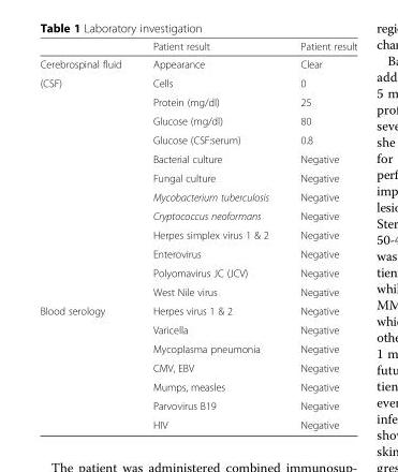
<table><thead><tr><td></td><td>Patient result</td><td>Patient result</td></tr></thead><tbody><tr><td>Cerebrospinal fluid</td><td>Appearance</td><td>Clear</td></tr><tr><td rowspan="12">(CSF)</td><td>Cells</td><td>0</td></tr><tr><td>Protein (mg/dl)</td><td>25</td></tr><tr><td>Glucose (mg/dl)</td><td>80</td></tr><tr><td>Glucose (CSF:serum)</td><td>0.8</td></tr><tr><td>Bacterial culture</td><td>Negative</td></tr><tr><td>Fungal culture</td><td>Negative</td></tr><tr><td>Mycobacterium tuberculosis</td><td>Negative</td></tr><tr><td>Cryptococcus neoformans</td><td>Negative</td></tr><tr><td>Herpes simplex virus 1 &amp; 2</td><td>Negative</td></tr><tr><td>Enterovirus</td><td>Negative</td></tr><tr><td>Polyomavirus JC (JCV)</td><td>Negative</td></tr><tr><td>West Nile virus</td><td>Negative</td></tr><tr><td rowspan="7">Blood serology</td><td>Herpes virus 1 &amp; 2</td><td>Negative</td></tr><tr><td>Varicella</td><td>Negative</td></tr><tr><td>Mycoplasma pneumonia</td><td>Negative</td></tr><tr><td>CMV, EBV</td><td>Negative</td></tr><tr><td>Mumps, measles</td><td>Negative</td></tr><tr><td>Parvovirus B19</td><td>Negative</td></tr><tr><td>HIV</td><td>Negative</td></tr></tbody></table>